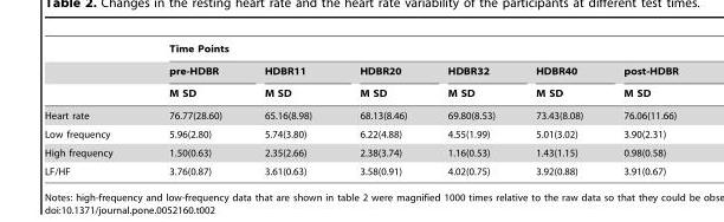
<table><thead><tr><td rowspan="3"></td><td colspan="6">Time Points</td></tr><tr><td rowspan="2">pre-HDBR M SD</td><td rowspan="2">HDBR11 M SD</td><td rowspan="2">HDBR20 M SD</td><td rowspan="2">HDBR32 M SD</td><td rowspan="2">HDBR40 M SD</td><td rowspan="2">post-HDBR M SD</td></tr><tr></tr></thead><tbody><tr><td>Heart rate</td><td>76.77(28.60)</td><td>65.16(8.98)</td><td>68.13(8.46)</td><td>69.80(8.53)</td><td>73.43(8.08)</td><td>76.06(11.66)</td></tr><tr><td>Low frequency</td><td>5.96(2.80)</td><td>5.74(3.80)</td><td>6.22(4.88)</td><td>4.55(1.99)</td><td>5.01(3.02)</td><td>3.90(2.31)</td></tr><tr><td>High frequency</td><td>1.50(0.63)</td><td>2.35(2.66)</td><td>2.38(3.74)</td><td>1.16(0.53)</td><td>1.43(1.15)</td><td>0.98(0.58)</td></tr><tr><td>LF/HF</td><td>3.76(0.87)</td><td>3.61(0.63)</td><td>3.58(0.91)</td><td>4.02(0.75)</td><td>3.92(0.88)</td><td>3.91(0.67)</td></tr></tbody></table>